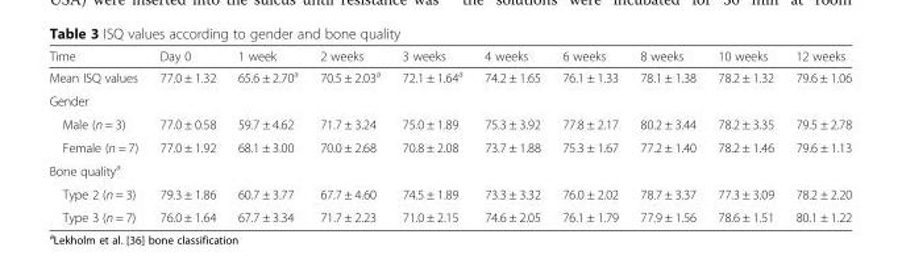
<table><thead><tr><td>Time</td><td>Day 0</td><td>1 week</td><td>2 weeks</td><td>3 weeks</td><td>4 weeks</td><td>6 weeks</td><td>8 weeks</td><td>10 weeks</td><td>12 weeks</td></tr></thead><tbody><tr><td>Mean ISQ values</td><td>77.0 ± 1.32</td><td>65.6 ± 2.70<sup>a</sup></td><td>70.5 ± 2.03<sup>a</sup></td><td>72.1 ± 1.64<sup>a</sup></td><td>74.2 ± 1.65</td><td>76.1 ± 1.33</td><td>78.1 ± 1.38</td><td>78.2 ± 1.32</td><td>79.6 ± 1.06</td></tr><tr><td colspan="10">Gender</td></tr><tr><td>Male (n = 3)</td><td>77.0 ± 0.58</td><td>59.7 ± 4.62</td><td>71.7 ± 3.24</td><td>75.0 ± 1.89</td><td>75.3 ± 3.92</td><td>77.8 ± 2.17</td><td>80.2 ± 3.44</td><td>78.2 ± 3.35</td><td>79.5 ± 2.78</td></tr><tr><td>Female (n = 7)</td><td>77.0 ± 1.92</td><td>68.1 ± 3.00</td><td>70.0 ± 2.68</td><td>70.8 ± 2.08</td><td>73.7 ± 1.88</td><td>75.3 ± 1.67</td><td>77.2 ± 1.40</td><td>78.2 ± 1.46</td><td>79.6 ± 1.13</td></tr><tr><td colspan="10">Bone quality<sup>a</sup></td></tr><tr><td>Type 2 (n = 3)</td><td>79.3 ± 1.86</td><td>60.7 ± 3.77</td><td>67.7 ± 4.60</td><td>74.5 ± 1.89</td><td>73.3 ± 3.32</td><td>76.0 ± 2.02</td><td>78.7 ± 3.37</td><td>77.3 ± 3.09</td><td>78.2 ± 2.20</td></tr><tr><td>Type 3 (n = 7)</td><td>76.0 ± 1.64</td><td>67.7 ± 3.34</td><td>71.7 ± 2.23</td><td>71.0 ± 2.15</td><td>74.6 ± 2.05</td><td>76.1 ± 1.79</td><td>77.9 ± 1.56</td><td>78.6 ± 1.51</td><td>80.1 ± 1.22</td></tr></tbody></table>